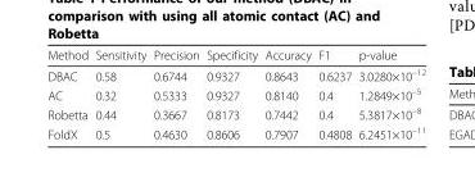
<table><thead><tr><td>Method</td><td>Sensitivity</td><td>Precision</td><td>Specificity</td><td>Accuracy</td><td>F1</td><td>p-value</td></tr></thead><tbody><tr><td>DBAC</td><td>0.58</td><td>0.6744</td><td>0.9327</td><td>0.8643</td><td>0.6237</td><td>3.0280×10<sup>–12</sup></td></tr><tr><td>AC</td><td>0.32</td><td>0.5333</td><td>0.9327</td><td>0.8140</td><td>0.4</td><td>1.2849×10<sup>–5</sup></td></tr><tr><td>Robetta</td><td>0.44</td><td>0.3667</td><td>0.8173</td><td>0.7442</td><td>0.4</td><td>5.3817×10<sup>–8</sup></td></tr><tr><td>FoldX</td><td>0.5</td><td>0.4630</td><td>0.8606</td><td>0.7907</td><td>0.4808</td><td>6.2451×10<sup>–11</sup></td></tr></tbody></table>